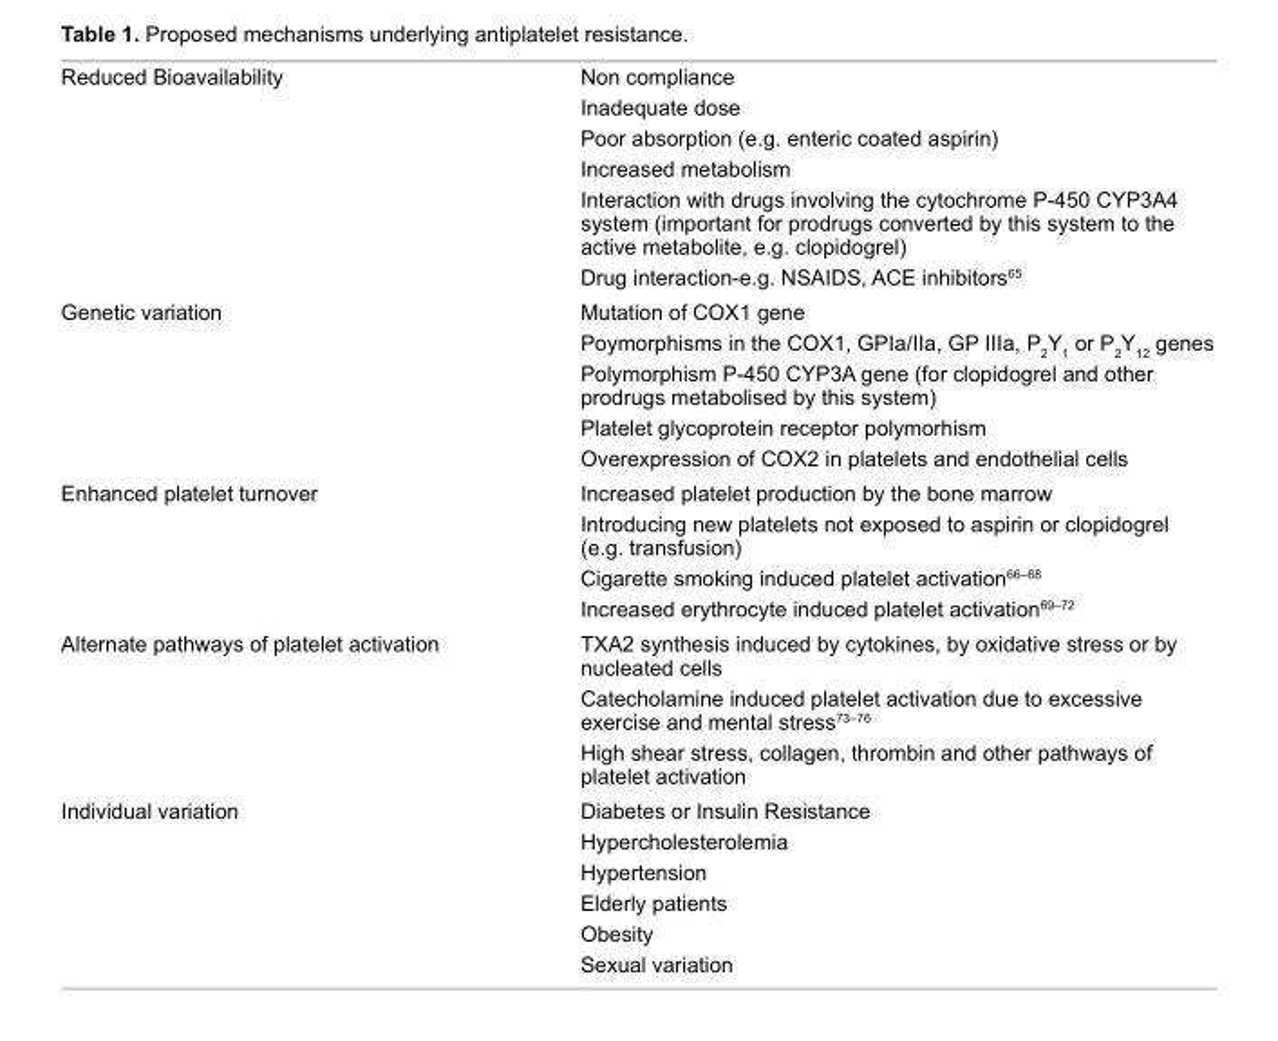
<table><tbody><tr><td rowspan="6">Reduced Bioavailability</td><td>Non compliance</td></tr><tr><td>inadequate dose</td></tr><tr><td>Poor absorption (e.g. enteric coated aspirin)</td></tr><tr><td>increased metabolism</td></tr><tr><td>interaction with drugs involving the cytochrome P-450 CYP3A4 system (important for prodrugs converted by this system to the active metabolite, e.g. clopidogrel)</td></tr><tr><td>Drug interaction-e.g. NSAiDS, ACe inhibitors<sup>65</sup></td></tr><tr><td rowspan="5">Genetic variation</td><td>Mutation of COX1 gene</td></tr><tr><td>Poymorphisms in the COX1, GPia/iia, GP iiia, P<sub>2</sub>Y<sub>1</sub> or P<sub>2</sub>Y<sub>12</sub> genes</td></tr><tr><td>Polymorphism P-450 CYP3A gene (for clopidogrel and other prodrugs metabolised by this system)</td></tr><tr><td>Platelet glycoprotein receptor polymorhism</td></tr><tr><td>Overexpression of COX2 in platelets and endothelial cells</td></tr><tr><td rowspan="4">enhanced platelet turnover</td><td>increased platelet production by the bone marrow</td></tr><tr><td>introducing new platelets not exposed to aspirin or clopidogrel (e.g. transfusion)</td></tr><tr><td>Cigarette smoking induced platelet activation<sup>66</sup>–<sup>68</sup></td></tr><tr><td>increased erythrocyte induced platelet activation<sup>69</sup>–<sup>72</sup></td></tr><tr><td rowspan="3">Alternate pathways of platelet activation</td><td>TXA2 synthesis induced by cytokines, by oxidative stress or by nucleated cells</td></tr><tr><td>Catecholamine induced platelet activation due to excessive exercise and mental stress<sup>73</sup>–<sup>76</sup></td></tr><tr><td>High shear stress, collagen, thrombin and other pathways of platelet activation</td></tr><tr><td rowspan="6">individual variation</td><td>Diabetes or insulin Resistance</td></tr><tr><td>Hypercholesterolemia</td></tr><tr><td>Hypertension</td></tr><tr><td>elderly patients</td></tr><tr><td>Obesity</td></tr><tr><td>Sexual variation</td></tr></tbody></table>